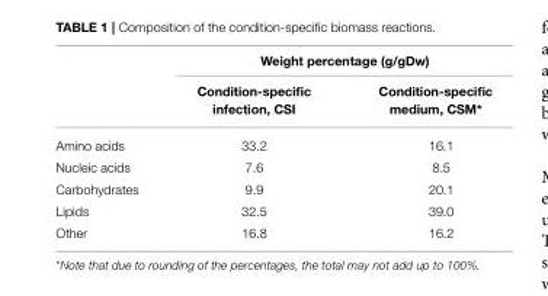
<table><thead><tr><td rowspan="2"></td><td colspan="2">Weight percentage (g/gDw)</td></tr><tr><td>Condition-specific infection, CSI</td><td>Condition-specific medium, CSM*</td></tr></thead><tbody><tr><td>Amino acids</td><td>33.2</td><td>16.1</td></tr><tr><td>Nucleic acids</td><td>7.6</td><td>8.5</td></tr><tr><td>Carbohydrates</td><td>9.9</td><td>20.1</td></tr><tr><td>Lipids</td><td>32.5</td><td>39.0</td></tr><tr><td>Other</td><td>16.8</td><td>16.2</td></tr></tbody></table>